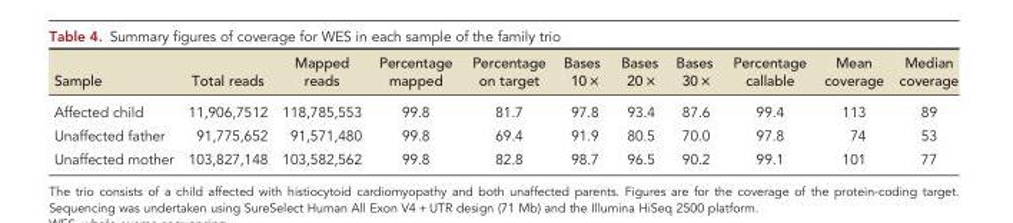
<table><thead><tr><td>Sample</td><td>Total reads</td><td>Mapped reads</td><td>Percentage mapped</td><td>Percentage on target</td><td>Bases 10 ×</td><td>Bases 20 ×</td><td>Bases 30 ×</td><td>Percentage callable</td><td>Mean coverage</td><td>Median coverage</td></tr></thead><tbody><tr><td>Affected child</td><td>11,906,7512</td><td>118,785,553</td><td>99.8</td><td>81.7</td><td>97.8</td><td>93.4</td><td>87.6</td><td>99.4</td><td>113</td><td>89</td></tr><tr><td>Unaffected father</td><td>91,775,652</td><td>91,571,480</td><td>99.8</td><td>69.4</td><td>91.9</td><td>80.5</td><td>70.0</td><td>97.8</td><td>74</td><td>53</td></tr><tr><td>Unaffected mother</td><td>103,827,148</td><td>103,582,562</td><td>99.8</td><td>82.8</td><td>98.7</td><td>96.5</td><td>90.2</td><td>99.1</td><td>101</td><td>77</td></tr></tbody></table>